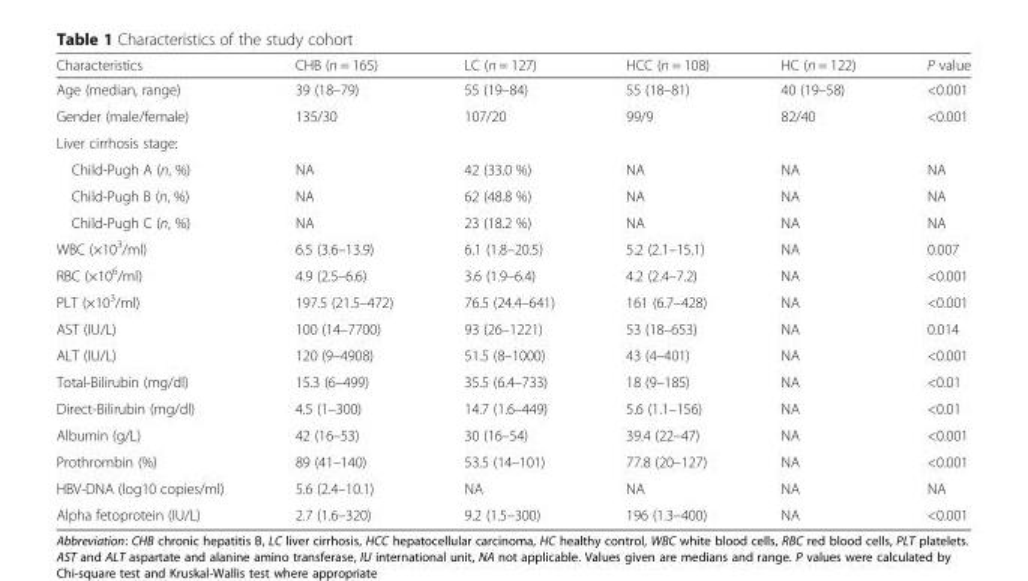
<table><thead><tr><td>Characteristics</td><td>CHB (n = 165)</td><td>LC (n = 127)</td><td>HCC (n = 108)</td><td>HC (n = 122)</td><td>P value</td></tr></thead><tbody><tr><td>Age (median, range)</td><td>39 (18–79)</td><td>55 (19–84)</td><td>55 (18–81)</td><td>40 (19–58)</td><td>&lt;0.001</td></tr><tr><td>Gender (male/female)</td><td>135/30</td><td>107/20</td><td>99/9</td><td>82/40</td><td>&lt;0.001</td></tr><tr><td colspan="6">Liver cirrhosis stage:</td></tr><tr><td>Child-Pugh A (n, %)</td><td>NA</td><td>42 (33.0 %)</td><td>NA</td><td>NA</td><td>NA</td></tr><tr><td>Child-Pugh B (n, %)</td><td>NA</td><td>62 (48.8 %)</td><td>NA</td><td>NA</td><td>NA</td></tr><tr><td>Child-Pugh C (n, %)</td><td>NA</td><td>23 (18.2 %)</td><td>NA</td><td>NA</td><td>NA</td></tr><tr><td>WBC (×10<sup>3</sup>/ml)</td><td>6.5 (3.6–13.9)</td><td>6.1 (1.8–20.5)</td><td>5.2 (2.1–15.1)</td><td>NA</td><td>0.007</td></tr><tr><td>RBC (×10<sup>6</sup>/ml)</td><td>4.9 (2.5–6.6)</td><td>3.6 (1.9–6.4)</td><td>4.2 (2.4–7.2)</td><td>NA</td><td>&lt;0.001</td></tr><tr><td>PLT (×10<sup>3</sup>/ml)</td><td>197.5 (21.5–472)</td><td>76.5 (24.4–641)</td><td>161 (6.7–428)</td><td>NA</td><td>&lt;0.001</td></tr><tr><td>AST (IU/L)</td><td>100 (14–7700)</td><td>93 (26–1221)</td><td>53 (18–653)</td><td>NA</td><td>0.014</td></tr><tr><td>ALT (IU/L)</td><td>120 (9–4908)</td><td>51.5 (8–1000)</td><td>43 (4–401)</td><td>NA</td><td>&lt;0.001</td></tr><tr><td>Total-Bilirubin (mg/dl)</td><td>15.3 (6–499)</td><td>35.5 (6.4–733)</td><td>18 (9–185)</td><td>NA</td><td>&lt;0.01</td></tr><tr><td>Direct-Bilirubin (mg/dl)</td><td>4.5 (1–300)</td><td>14.7 (1.6–449)</td><td>5.6 (1.1–156)</td><td>NA</td><td>&lt;0.01</td></tr><tr><td>Albumin (g/L)</td><td>42 (16–53)</td><td>30 (16–54)</td><td>39.4 (22–47)</td><td>NA</td><td>&lt;0.001</td></tr><tr><td>Prothrombin (%)</td><td>89 (41–140)</td><td>53.5 (14–101)</td><td>77.8 (20–127)</td><td>NA</td><td>&lt;0.001</td></tr><tr><td>HBV-DNA (log10 copies/ml)</td><td>5.6 (2.4–10.1)</td><td>NA</td><td>NA</td><td>NA</td><td>NA</td></tr><tr><td>Alpha fetoprotein (IU/L)</td><td>2.7 (1.6–320)</td><td>9.2 (1.5–300)</td><td>196 (1.3–400)</td><td>NA</td><td>&lt;0.001</td></tr></tbody></table>